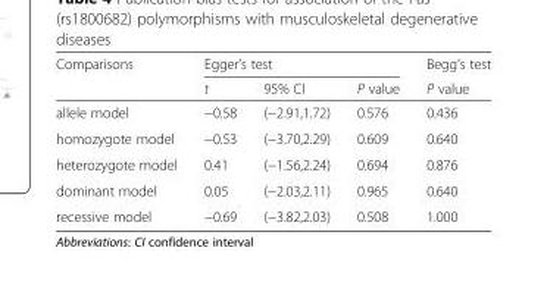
<table><thead><tr><td rowspan="2">Comparisons</td><td colspan="3">Egger’s test</td><td rowspan="2">Begg’s test P value</td></tr><tr><td>t</td><td>95% CI</td><td>P value</td></tr></thead><tbody><tr><td>allele model</td><td>−0.58</td><td>(−2.91,1.72)</td><td>0.576</td><td>0.436</td></tr><tr><td>homozygote model</td><td>−0.53</td><td>(−3.70,2.29)</td><td>0.609</td><td>0.640</td></tr><tr><td>heterozygote model</td><td>0.41</td><td>(−1.56,2.24)</td><td>0.694</td><td>0.876</td></tr><tr><td>dominant model</td><td>0.05</td><td>(−2.03,2.11)</td><td>0.965</td><td>0.640</td></tr><tr><td>recessive model</td><td>−0.69</td><td>(−3.82,2.03)</td><td>0.508</td><td>1.000</td></tr></tbody></table>